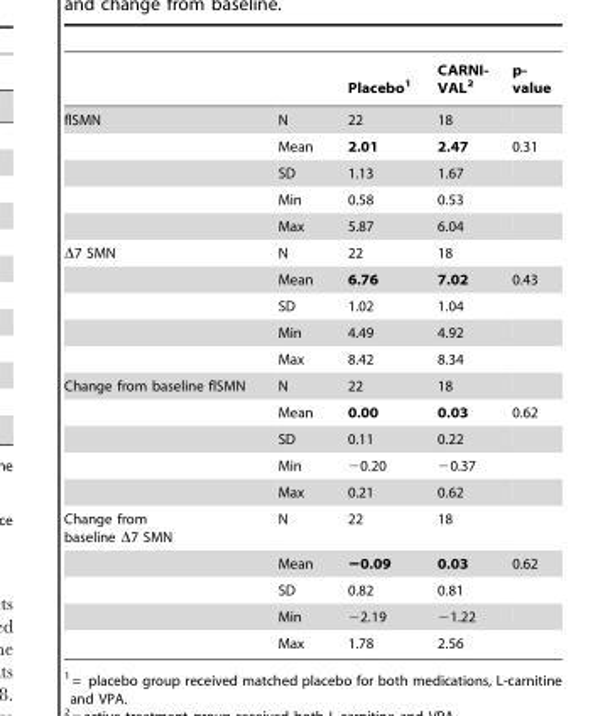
<table><thead><tr><td></td><td></td><td>Placebo<sup>1</sup></td><td>CARNI- VAL<sup>2</sup></td><td>p- value</td></tr></thead><tbody><tr><td rowspan="5">flSMN</td><td>N</td><td>22</td><td>18</td><td></td></tr><tr><td>Mean</td><td>2.01</td><td>2.47</td><td>0.31</td></tr><tr><td>SD</td><td>1.13</td><td>1.67</td><td></td></tr><tr><td>Min</td><td>0.58</td><td>0.53</td><td></td></tr><tr><td>Max</td><td>5.87</td><td>6.04</td><td></td></tr><tr><td rowspan="5">Δ7 SMN</td><td>N</td><td>22</td><td>18</td><td></td></tr><tr><td>Mean</td><td>6.76</td><td>7.02</td><td>0.43</td></tr><tr><td>SD</td><td>1.02</td><td>1.04</td><td></td></tr><tr><td>Min</td><td>4.49</td><td>4.92</td><td></td></tr><tr><td>Max</td><td>8.42</td><td>8.34</td><td></td></tr><tr><td rowspan="5">Change from baseline flSMN</td><td>N</td><td>22</td><td>18</td><td></td></tr><tr><td>Mean</td><td>0.00</td><td>0.03</td><td>0.62</td></tr><tr><td>SD</td><td>0.11</td><td>0.22</td><td></td></tr><tr><td>Min</td><td>−0.20</td><td>−0.37</td><td></td></tr><tr><td>Max</td><td>0.21</td><td>0.62</td><td></td></tr><tr><td rowspan="5">Change from baseline Δ7 SMN</td><td>N</td><td>22</td><td>18</td><td></td></tr><tr><td>Mean</td><td>−0.09</td><td>0.03</td><td>0.62</td></tr><tr><td>SD</td><td>0.82</td><td>0.81</td><td></td></tr><tr><td>Min</td><td>−2.19</td><td>−1.22</td><td></td></tr><tr><td>Max</td><td>1.78</td><td>2.56</td><td></td></tr></tbody></table>